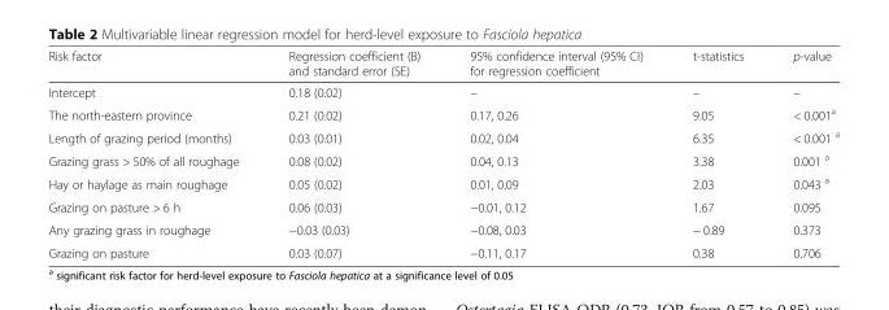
<table><thead><tr><td>Risk factor</td><td>Regression coefficient (B) and standard error (SE)</td><td>95% confidence interval (95% CI) for regression coefficient</td><td>t-statistics</td><td>p-value</td></tr></thead><tbody><tr><td>Intercept</td><td>0.18 (0.02)</td><td>–</td><td>–</td><td>–</td></tr><tr><td>The north-eastern province</td><td>0.21 (0.02)</td><td>0.17, 0.26</td><td>9.05</td><td>&lt; 0.001<sup>a</sup></td></tr><tr><td>Length of grazing period (months)</td><td>0.03 (0.01)</td><td>0.02, 0.04</td><td>6.35</td><td>&lt; 0.001 <sup>a</sup></td></tr><tr><td>Grazing grass &gt; 50% of all roughage</td><td>0.08 (0.02)</td><td>0.04, 0.13</td><td>3.38</td><td>0.001 <sup>a</sup></td></tr><tr><td>Hay or haylage as main roughage</td><td>0.05 (0.02)</td><td>0.01, 0.09</td><td>2.03</td><td>0.043 <sup>a</sup></td></tr><tr><td>Grazing on pasture &gt; 6 h</td><td>0.06 (0.03)</td><td>−0.01, 0.12</td><td>1.67</td><td>0.095</td></tr><tr><td>Any grazing grass in roughage</td><td>−0.03 (0.03)</td><td>−0.08, 0.03</td><td>− 0.89</td><td>0.373</td></tr><tr><td>Grazing on pasture</td><td>0.03 (0.07)</td><td>−0.11, 0.17</td><td>0.38</td><td>0.706</td></tr></tbody></table>